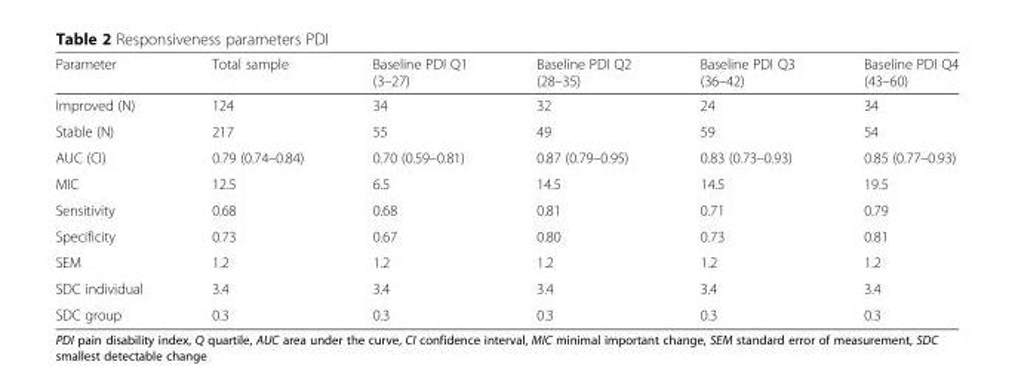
<table><thead><tr><td>Parameter</td><td>Total sample</td><td>Baseline PDI Q1 (3–27)</td><td>Baseline PDI Q2 (28–35)</td><td>Baseline PDI Q3 (36–42)</td><td>Baseline PDI Q4 (43–60)</td></tr></thead><tbody><tr><td>Improved (N)</td><td>124</td><td>34</td><td>32</td><td>24</td><td>34</td></tr><tr><td>Stable (N)</td><td>217</td><td>55</td><td>49</td><td>59</td><td>54</td></tr><tr><td>AUC (CI)</td><td>0.79 (0.74–0.84)</td><td>0.70 (0.59–0.81)</td><td>0.87 (0.79–0.95)</td><td>0.83 (0.73–0.93)</td><td>0.85 (0.77–0.93)</td></tr><tr><td>MIC</td><td>12.5</td><td>6.5</td><td>14.5</td><td>14.5</td><td>19.5</td></tr><tr><td>Sensitivity</td><td>0.68</td><td>0.68</td><td>0.81</td><td>0.71</td><td>0.79</td></tr><tr><td>Specificity</td><td>0.73</td><td>0.67</td><td>0.80</td><td>0.73</td><td>0.81</td></tr><tr><td>SEM</td><td>1.2</td><td>1.2</td><td>1.2</td><td>1.2</td><td>1.2</td></tr><tr><td>SDC individual</td><td>3.4</td><td>3.4</td><td>3.4</td><td>3.4</td><td>3.4</td></tr><tr><td>SDC group</td><td>0.3</td><td>0.3</td><td>0.3</td><td>0.3</td><td>0.3</td></tr></tbody></table>